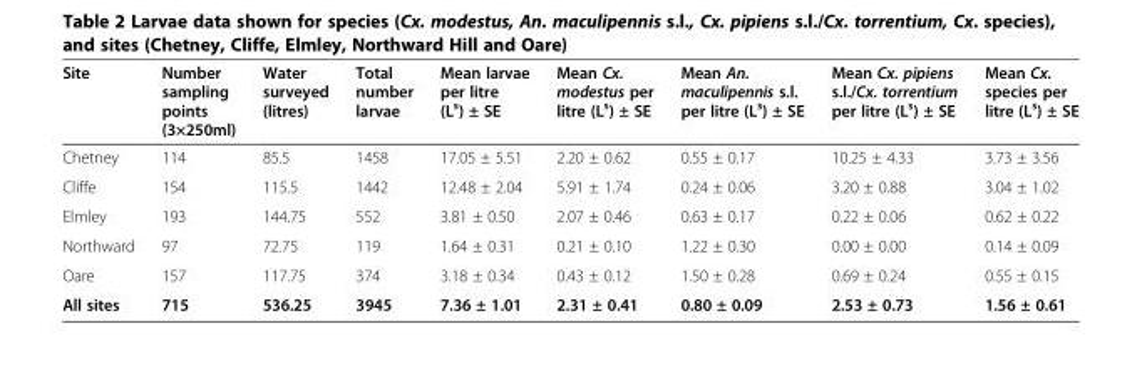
<table><thead><tr><td>Site</td><td>Number sampling points (3×250ml)</td><td>Water surveyed (litres)</td><td>Total number larvae</td><td>Mean larvae per litre (L<sup>s</sup>) ± SE</td><td>Mean Cx. modestus per litre (L<sup>s</sup>) ± SE</td><td>Mean An. maculipennis s.l. per litre (L<sup>s</sup>) ± SE</td><td>Mean Cx. pipiens s.l./Cx. torrentium per litre (L<sup>s</sup>) ± SE</td><td>Mean Cx. species per litre (L<sup>s</sup>) ± SE</td></tr></thead><tbody><tr><td>Chetney</td><td>114</td><td>85.5</td><td>1458</td><td>17.05 ± 5.51</td><td>2.20 ± 0.62</td><td>0.55 ± 0.17</td><td>10.25 ± 4.33</td><td>3.73 ± 3.56</td></tr><tr><td>Cliffe</td><td>154</td><td>115.5</td><td>1442</td><td>12.48 ± 2.04</td><td>5.91 ± 1.74</td><td>0.24 ± 0.06</td><td>3.20 ± 0.88</td><td>3.04 ± 1.02</td></tr><tr><td>Elmley</td><td>193</td><td>144.75</td><td>552</td><td>3.81 ± 0.50</td><td>2.07 ± 0.46</td><td>0.63 ± 0.17</td><td>0.22 ± 0.06</td><td>0.62 ± 0.22</td></tr><tr><td>Northward</td><td>97</td><td>72.75</td><td>119</td><td>1.64 ± 0.31</td><td>0.21 ± 0.10</td><td>1.22 ± 0.30</td><td>0.00 ± 0.00</td><td>0.14 ± 0.09</td></tr><tr><td>Oare</td><td>157</td><td>117.75</td><td>374</td><td>3.18 ± 0.34</td><td>0.43 ± 0.12</td><td>1.50 ± 0.28</td><td>0.69 ± 0.24</td><td>0.55 ± 0.15</td></tr><tr><td>All sites</td><td>715</td><td>536.25</td><td>3945</td><td>7.36 ± 1.01</td><td>2.31 ± 0.41</td><td>0.80 ± 0.09</td><td>2.53 ± 0.73</td><td>1.56 ± 0.61</td></tr></tbody></table>